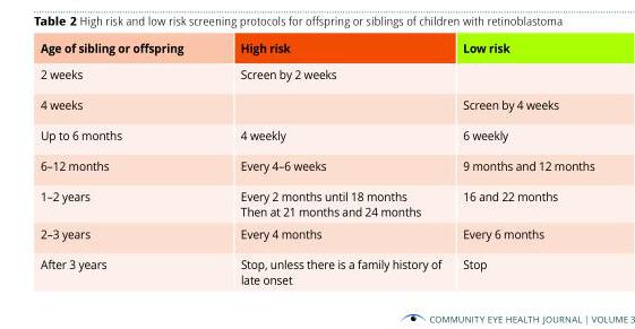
<table><thead><tr><td>Age of sibling or offspring</td><td>High risk</td><td>Low risk</td></tr></thead><tbody><tr><td>2 weeks</td><td>Screen by 2 weeks</td><td></td></tr><tr><td>4 weeks</td><td></td><td>Screen by 4 weeks</td></tr><tr><td>Up to 6 months</td><td>4 weekly</td><td>6 weekly</td></tr><tr><td>6–12 months</td><td>Every 4–6 weeks</td><td>9 months and 12 months</td></tr><tr><td>1–2 years</td><td>Every 2 months until 18 months Then at 21 months and 24 months</td><td>16 and 22 months</td></tr><tr><td>2–3 years</td><td>Every 4 months</td><td>Every 6 months</td></tr><tr><td>After 3 years</td><td>Stop, unless there is a family history of late onset</td><td>Stop</td></tr></tbody></table>